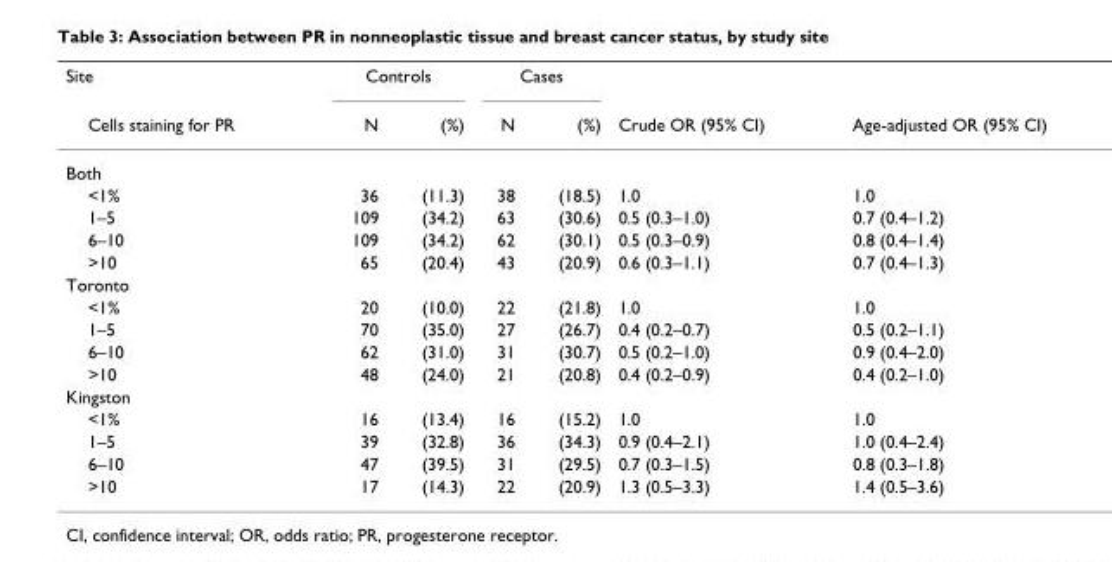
<table><thead><tr><td rowspan="2">Site Cells staining for PR</td><td colspan="2">Controls</td><td colspan="2">Cases</td><td rowspan="2">Crude OR (95% CI)</td><td rowspan="2">Age-adjusted OR (95% CI)</td></tr><tr><td>N</td><td>(%)</td><td>N</td><td>(%)</td></tr></thead><tbody><tr><td colspan="7">Both</td></tr><tr><td>&lt;1%</td><td>36</td><td>(11.3)</td><td>38</td><td>(18.5)</td><td>1.0</td><td>1.0</td></tr><tr><td>1–5</td><td>109</td><td>(34.2)</td><td>63</td><td>(30.6)</td><td>0.5 (0.3–1.0)</td><td>0.7 (0.4–1.2)</td></tr><tr><td>6–10</td><td>109</td><td>(34.2)</td><td>62</td><td>(30.1)</td><td>0.5 (0.3–0.9)</td><td>0.8 (0.4–1.4)</td></tr><tr><td>&gt;10</td><td>65</td><td>(20.4)</td><td>43</td><td>(20.9)</td><td>0.6 (0.3–1.1)</td><td>0.7 (0.4–1.3)</td></tr><tr><td colspan="7">Toronto</td></tr><tr><td>&lt;1%</td><td>20</td><td>(10.0)</td><td>22</td><td>(21.8)</td><td>1.0</td><td>1.0</td></tr><tr><td>1–5</td><td>70</td><td>(35.0)</td><td>27</td><td>(26.7)</td><td>0.4 (0.2–0.7)</td><td>0.5 (0.2–1.1)</td></tr><tr><td>6–10</td><td>62</td><td>(31.0)</td><td>31</td><td>(30.7)</td><td>0.5 (0.2–1.0)</td><td>0.9 (0.4–2.0)</td></tr><tr><td>&gt;10</td><td>48</td><td>(24.0)</td><td>21</td><td>(20.8)</td><td>0.4 (0.2–0.9)</td><td>0.4 (0.2–1.0)</td></tr><tr><td colspan="7">Kingston</td></tr><tr><td>&lt;1%</td><td>16</td><td>(13.4)</td><td>16</td><td>(15.2)</td><td>1.0</td><td>1.0</td></tr><tr><td>1–5</td><td>39</td><td>(32.8)</td><td>36</td><td>(34.3)</td><td>0.9 (0.4–2.1)</td><td>1.0 (0.4–2.4)</td></tr><tr><td>6–10</td><td>47</td><td>(39.5)</td><td>31</td><td>(29.5)</td><td>0.7 (0.3–1.5)</td><td>0.8 (0.3–1.8)</td></tr><tr><td>&gt;10</td><td>17</td><td>(14.3)</td><td>22</td><td>(20.9)</td><td>1.3 (0.5–3.3)</td><td>1.4 (0.5–3.6)</td></tr></tbody></table>